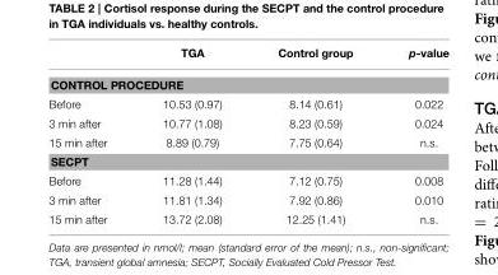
<table><thead><tr><td></td><td>TGA</td><td>Control group</td><td>p-value</td></tr></thead><tbody><tr><td colspan="4">CONTROL PROCEDURE</td></tr><tr><td>Before</td><td>10.53 (0.97)</td><td>8.14 (0.61)</td><td>0.022</td></tr><tr><td>3 min after</td><td>10.77 (1.08)</td><td>8.23 (0.59)</td><td>0.024</td></tr><tr><td>15 min after</td><td>8.89 (0.79)</td><td>7.75 (0.64)</td><td>n.s.</td></tr><tr><td colspan="4">SECPT</td></tr><tr><td>Before</td><td>11.28 (1.44)</td><td>7.12 (0.75)</td><td>0.008</td></tr><tr><td>3 min after</td><td>11.81 (1.34)</td><td>7.92 (0.86)</td><td>0.010</td></tr><tr><td>15 min after</td><td>13.72 (2.08)</td><td>12.25 (1.41)</td><td>n.s.</td></tr></tbody></table>